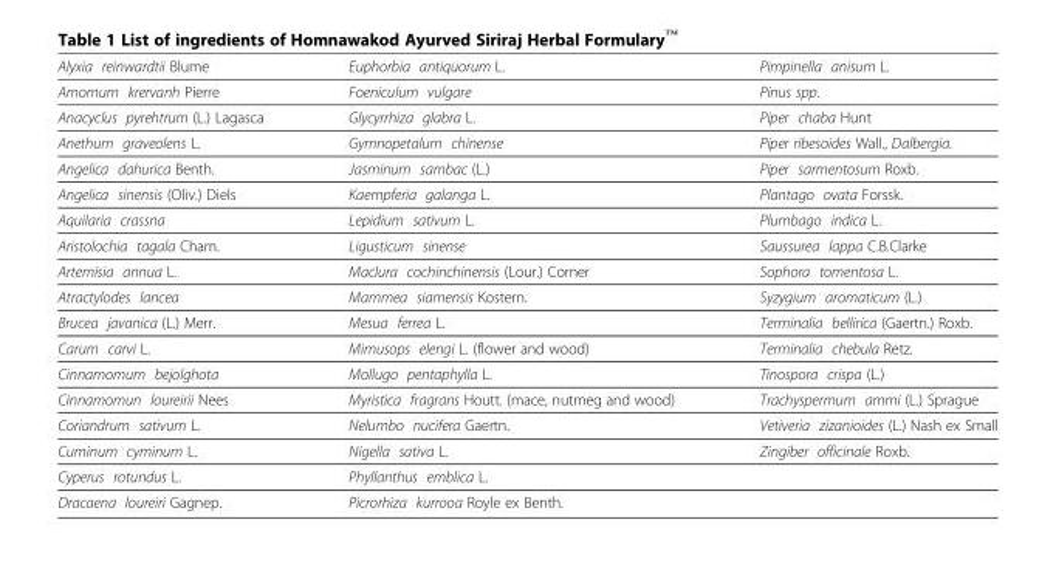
<table><tbody><tr><td>Alyxia reinwardtii Blume</td><td>Euphorbia antiquorum L.</td><td>Pimpinella anisum L.</td></tr><tr><td>Amomum krervanh Pierre</td><td>Foeniculum vulgare</td><td>Pinus spp.</td></tr><tr><td>Anacyclus pyrehtrum (L.) Lagasca</td><td>Glycyrrhiza glabra L.</td><td>Piper chaba Hunt</td></tr><tr><td>Anethum graveolens L.</td><td>Gymnopetalum chinense</td><td>Piper ribesoides Wall., Dalbergia.</td></tr><tr><td>Angelica dahurica Benth.</td><td>Jasminum sambac (L.)</td><td>Piper sarmentosum Roxb.</td></tr><tr><td>Angelica sinensis (Oliv.) Diels</td><td>Kaempferia galanga L.</td><td>Plantago ovata Forssk.</td></tr><tr><td>Aquilaria crassna</td><td>Lepidium sativum L.</td><td>Plumbago indica L.</td></tr><tr><td>Aristolochia tagala Cham.</td><td>Ligusticum sinense</td><td>Saussurea lappa C.B.Clarke</td></tr><tr><td>Artemisia annua L.</td><td>Maclura cochinchinensis (Lour.) Corner</td><td>Sophora tomentosa L.</td></tr><tr><td>Atractylodes lancea</td><td>Mammea siamensis Kostern.</td><td>Syzygium aromaticum (L.)</td></tr><tr><td>Brucea javanica (L.) Merr.</td><td>Mesua ferrea L.</td><td>Terminalia bellirica (Gaertn.) Roxb.</td></tr><tr><td>Carum carvi L.</td><td>Mimusops elengi L. (flower and wood)</td><td>Terminalia chebula Retz.</td></tr><tr><td>Cinnamomum bejolghota</td><td>Mollugo pentaphylla L.</td><td>Tinospora crispa (L.)</td></tr><tr><td>Cinnamomun loureirii Nees</td><td>Myristica fragrans Houtt. (mace, nutmeg and wood)</td><td>Trachyspermum ammi (L.) Sprague</td></tr><tr><td>Coriandrum sativum L.</td><td>Nelumbo nucifera Gaertn.</td><td>Vetiveria zizanioides (L.) Nash ex Small</td></tr><tr><td>Cuminum cyminum L.</td><td>Nigella sativa L.</td><td>Zingiber officinale Roxb.</td></tr><tr><td>Cyperus rotundus L.</td><td>Phyllanthus emblica L.</td><td></td></tr><tr><td>Dracaena loureiri Gagnep.</td><td>Picrorhiza kurrooa Royle ex Benth.</td><td></td></tr></tbody></table>